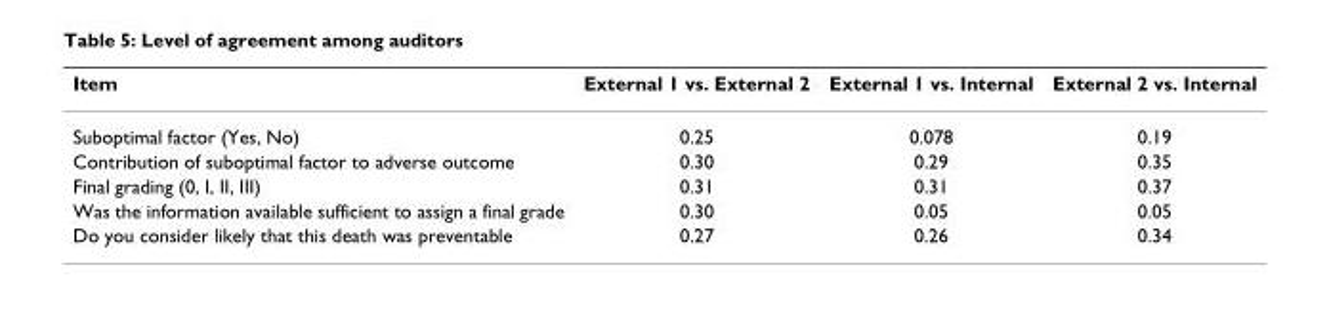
<table><thead><tr><td>Item</td><td>External 1 vs. External 2</td><td>External 1 vs. Internal</td><td>External 2 vs. Internal</td></tr></thead><tbody><tr><td>Suboptimal factor (Yes, No)</td><td>0.25</td><td>0.078</td><td>0.19</td></tr><tr><td>Contribution of suboptimal factor to adverse outcome</td><td>0.30</td><td>0.29</td><td>0.35</td></tr><tr><td>Final grading (0, I, II, III)</td><td>0.31</td><td>0.31</td><td>0.37</td></tr><tr><td>Was the information available sufficient to assign a final grade</td><td>0.30</td><td>0.05</td><td>0.05</td></tr><tr><td>Do you consider likely that this death was preventable</td><td>0.27</td><td>0.26</td><td>0.34</td></tr></tbody></table>